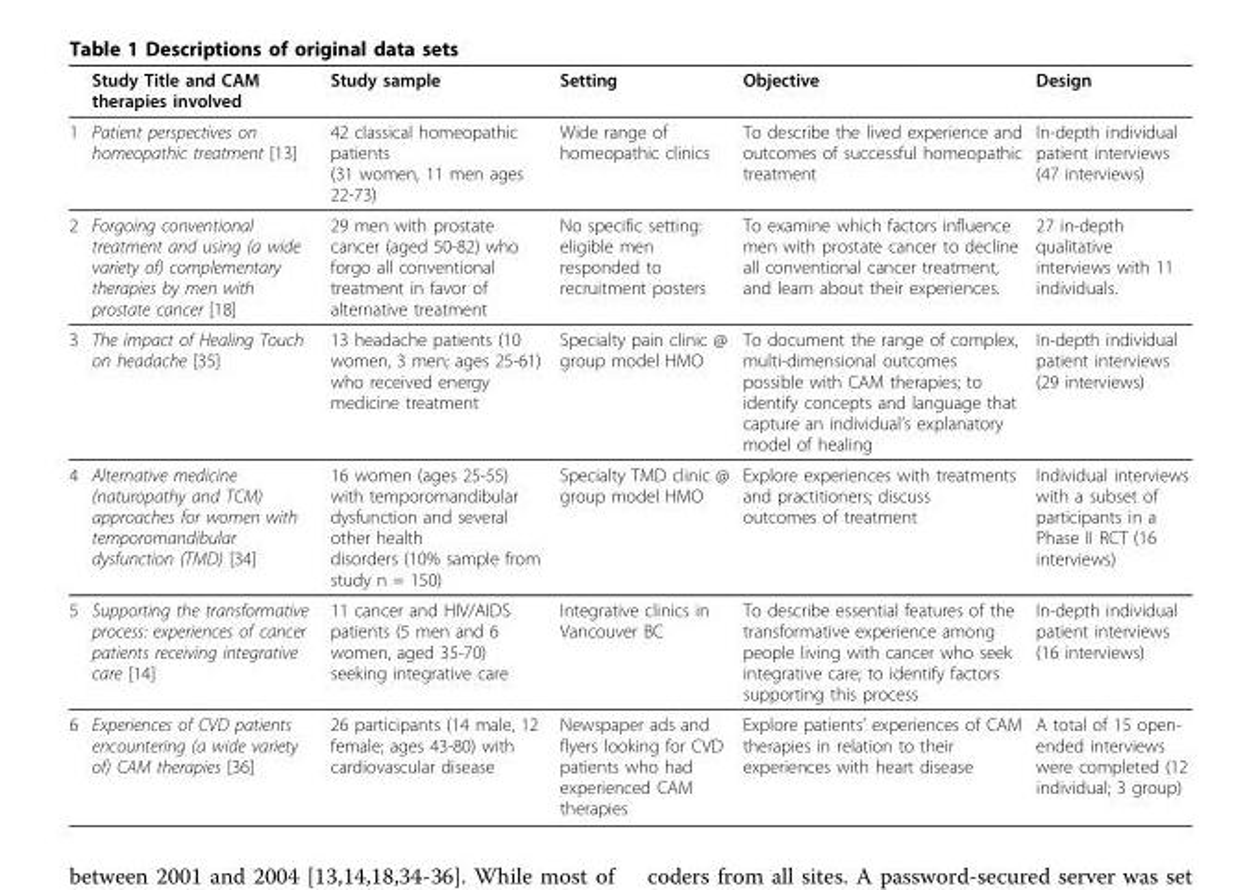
<table><thead><tr><td></td><td>Study Title and CAM therapies involved</td><td>Study sample</td><td>Setting</td><td>Objective</td><td>Design</td></tr></thead><tbody><tr><td>1</td><td>Patient perspectives on homeopathic treatment [13]</td><td>42 classical homeopathic patients (31 women, 11 men ages 22-73)</td><td>Wide range of homeopathic clinics</td><td>To describe the lived experience and outcomes of successful homeopathic treatment</td><td>In-depth individual patient interviews (47 interviews)</td></tr><tr><td>2</td><td>Forgoing conventional treatment and using (a wide variety of) complementary therapies by men with prostate cancer [18]</td><td>29 men with prostate cancer (aged 50-82) who forgo all conventional treatment in favor of alternative treatment</td><td>No specific setting: eligible men responded to recruitment posters</td><td>To examine which factors influence men with prostate cancer to decline all conventional cancer treatment, and learn about their experiences.</td><td>27 in-depth qualitative interviews with 11 individuals.</td></tr><tr><td>3</td><td>The impact of Healing Touch on headache [35]</td><td>13 headache patients (10 women, 3 men; ages 25-61) who received energy medicine treatment</td><td>Specialty pain clinic @ group model HMO</td><td>To document the range of complex, multi-dimensional outcomes possible with CAM therapies; to identify concepts and language that capture an individual’s explanatory model of healing</td><td>In-depth individual patient interviews (29 interviews)</td></tr><tr><td>4</td><td>Alternative medicine (naturopathy and TCM) approaches for women with temporomandibular dysfunction (TMD) [34]</td><td>16 women (ages 25-55) with temporomandibular dysfunction and several other health disorders (10% sample from study n = 150)</td><td>Specialty TMD clinic @ group model HMO</td><td>Explore experiences with treatments and practitioners; discuss outcomes of treatment</td><td>Individual interviews with a subset of participants in a Phase II RCT (16 interviews)</td></tr><tr><td>5</td><td>Supporting the transformative process: experiences of cancer patients receiving integrative care [14]</td><td>11 cancer and HIV/AIDS patients (5 men and 6 women, aged 35-70) seeking integrative care</td><td>Integrative clinics in Vancouver BC</td><td>To describe essential features of the transformative experience among people living with cancer who seek integrative care; to identify factors supporting this process</td><td>In-depth individual patient interviews (16 interviews)</td></tr><tr><td>6</td><td>Experiences of CVD patients encountering (a wide variety of) CAM therapies [36]</td><td>26 participants (14 male, 12 female; ages 43-80) with cardiovascular disease</td><td>Newspaper ads and flyers looking for CVD patients who had experienced CAM therapies</td><td>Explore patients’ experiences of CAM therapies in relation to their experiences with heart disease</td><td>A total of 15 open- ended interviews were completed (12 individual; 3 group)</td></tr></tbody></table>